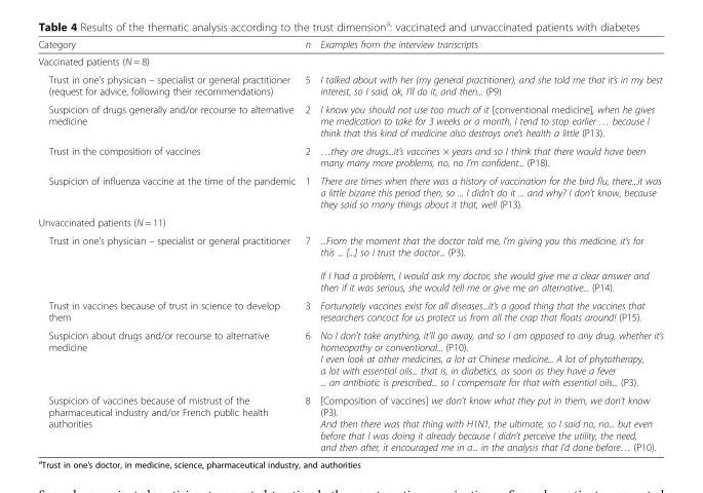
<table><thead><tr><td>Category</td><td>n</td><td>Examples from the interview transcripts</td></tr></thead><tbody><tr><td colspan="3">Vaccinated patients (N = 8)</td></tr><tr><td>Trust in one’s physician – specialist or general practitioner (request for advice, following their recommendations)</td><td>5</td><td>I talked about with her (my general practitioner), and she told me that it’s in my best interest, so I said, ok, I’ll do it, and then... (P9)</td></tr><tr><td>Suspicion of drugs generally and/or recourse to alternative medicine</td><td>2</td><td>I know you should not use too much of it [conventional medicine], when he gives me medication to take for 3 weeks or a month, I tend to stop earlier … because I think that this kind of medicine also destroys one’s health a little (P13).</td></tr><tr><td>Trust in the composition of vaccines</td><td>2</td><td>…they are drugs...it’s vaccines × years and so I think that there would have been many many more problems, no, no I’m confident... (P18).</td></tr><tr><td>Suspicion of influenza vaccine at the time of the pandemic</td><td>1</td><td>There are times when there was a history of vaccination for the bird flu, there...it was a little bizarre this period then, so ... I didn’t do it ... and why? I don’t know, because they said so many things about it that, well (P13).</td></tr><tr><td colspan="3">Unvaccinated patients (N = 11)</td></tr><tr><td>Trust in one’s physician – specialist or general practitioner</td><td>7</td><td>...From the moment that the doctor told me, I’m giving you this medicine, it’s for this ... [...] so I trust the doctor... (P3). If I had a problem, I would ask my doctor; she would give me a clear answer and then if it was serious, she would tell me or give me an alternative... (P14).</td></tr><tr><td>Trust in vaccines because of trust in science to develop them</td><td>3</td><td>Fortunately vaccines exist for all diseases...it’s a good thing that the vaccines that researchers concoct for us protect us from all the crap that floats around! (P15).</td></tr><tr><td>Suspicion about drugs and/or recourse to alternative medicine</td><td>6</td><td>No I don’t take anything, it’ll go away, and so I am opposed to any drug, whether it’s homeopathy or conventional... (P10). I even look at other medicines, a lot at Chinese medicine... A lot of phytotherapy, a lot with essential oils... that is, in diabetics, as soon as they have a fever ... an antibiotic is prescribed... so I compensate for that with essential oils... (P3).</td></tr><tr><td>Suspicion of vaccines because of mistrust of the pharmaceutical industry and/or French public health authorities</td><td>8</td><td>[Composition of vaccines] we don’t know what they put in them, we don’t know (P3). And then there was that thing with H1N1, the ultimate, so I said no, no... but even before that I was doing it already because I didn’t perceive the utility, the need, and then after, it encouraged me in a... in the analysis that I’d done before… (P10).</td></tr></tbody></table>